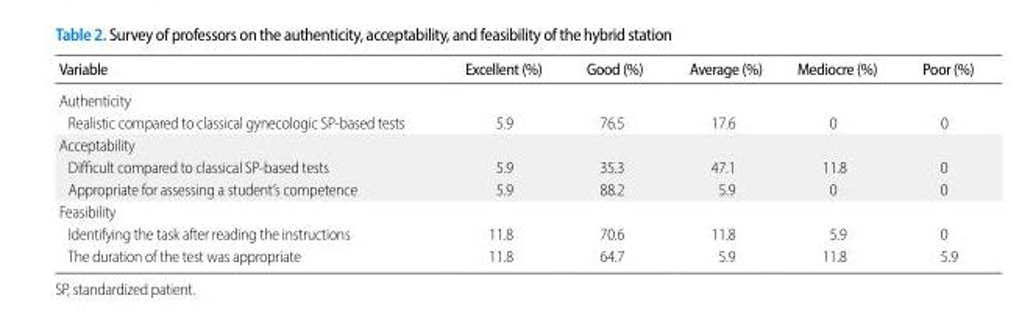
<table><thead><tr><td>Variable</td><td>Excellent (%)</td><td>Good (%)</td><td>Average (%)</td><td>Mediocre (%)</td><td>Poor (%)</td></tr></thead><tbody><tr><td colspan="6">Authenticity</td></tr><tr><td>Realistic compared to classical gynecologic SP-based tests</td><td>5.9</td><td>76.5</td><td>17.6</td><td>0</td><td>0</td></tr><tr><td colspan="6">Acceptability</td></tr><tr><td>Difficult compared to classical SP-based tests</td><td>5.9</td><td>35.3</td><td>47.1</td><td>11.8</td><td>0</td></tr><tr><td>Appropriate for assessing a student’s competence</td><td>5.9</td><td>88.2</td><td>5.9</td><td>0</td><td>0</td></tr><tr><td colspan="6">Feasibility</td></tr><tr><td>Identifying the task after reading the instructions</td><td>11.8</td><td>70.6</td><td>11.8</td><td>5.9</td><td>0</td></tr><tr><td>The duration of the test was appropriate</td><td>11.8</td><td>64.7</td><td>5.9</td><td>11.8</td><td>5.9</td></tr></tbody></table>